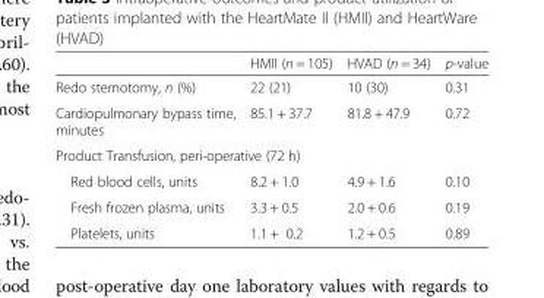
<table><thead><tr><td></td><td>HMII (n = 105)</td><td>HVAD (n = 34)</td><td>p-value</td></tr></thead><tbody><tr><td>Redo sternotomy, n (%)</td><td>22 (21)</td><td>10 (30)</td><td>0.31</td></tr><tr><td>Cardiopulmonary bypass time, minutes</td><td>85.1 + 37.7</td><td>81.8 + 47.9</td><td>0.72</td></tr><tr><td colspan="4">Product Transfusion, peri-operative (72 h)</td></tr><tr><td>Red blood cells, units</td><td>8.2 + 1.0</td><td>4.9 + 1.6</td><td>0.10</td></tr><tr><td>Fresh frozen plasma, units</td><td>3.3 + 0.5</td><td>2.0 + 0.6</td><td>0.19</td></tr><tr><td>Platelets, units</td><td>1.1 + 0.2</td><td>1.2 + 0.5</td><td>0.89</td></tr></tbody></table>